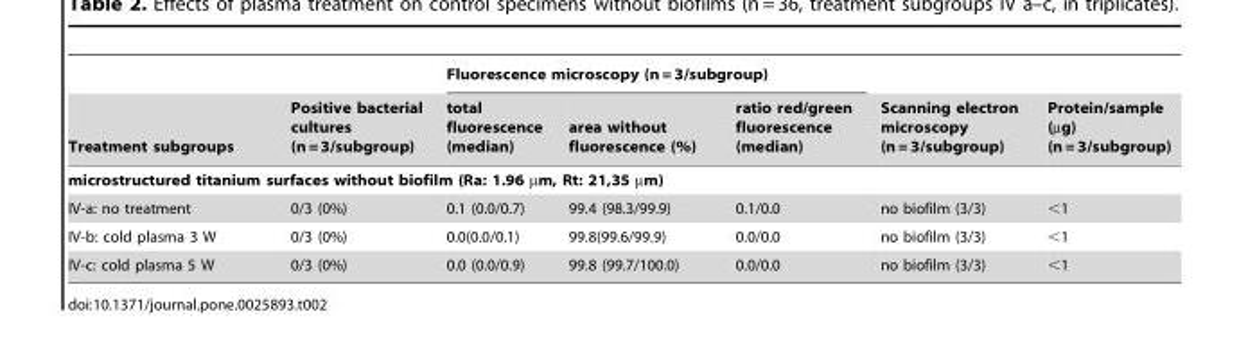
<table><thead><tr><td rowspan="2">Treatment subgroups</td><td rowspan="2">Positive bacterial cultures (n = 3/subgroup)</td><td colspan="3">Fluorescence microscopy (n = 3/subgroup)</td><td rowspan="2">Scanning electron microscopy (n = 3/subgroup)</td><td rowspan="2">Protein/sample (µg) (n = 3/subgroup)</td></tr><tr><td>total fluorescence (median)</td><td>area without fluorescence (%)</td><td>ratio red/green fluorescence (median)</td></tr></thead><tbody><tr><td colspan="7">microstructured titanium surfaces without biofilm (Ra: 1.96 µm, Rt: 21,35 µm)</td></tr><tr><td>IV-a: no treatment</td><td>0/3 (0%)</td><td>0.1 (0.0/0.7)</td><td>99.4 (98.3/99.9)</td><td>0.1/0.0</td><td>no biofilm (3/3)</td><td>&lt;1</td></tr><tr><td>IV-b: cold plasma 3 W</td><td>0/3 (0%)</td><td>0.0(0.0/0.1)</td><td>99.8(99.6/99.9)</td><td>0.0/0.0</td><td>no biofilm (3/3)</td><td>&lt;1</td></tr><tr><td>IV-c: cold plasma 5 W</td><td>0/3 (0%)</td><td>0.0 (0.0/0.9)</td><td>99.8 (99.7/100.0)</td><td>0.0/0.0</td><td>no biofilm (3/3)</td><td>&lt;1</td></tr></tbody></table>